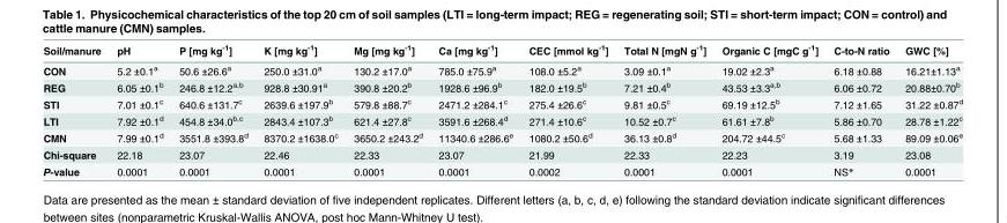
<table><thead><tr><td>Soil/manure</td><td>pH</td><td>P [mg kg<sup>-1</sup>]</td><td>K [mg kg<sup>-1</sup>]</td><td>Mg [mg kg<sup>-1</sup>]</td><td>Ca [mg kg<sup>-1</sup>]</td><td>CEC [mmol kg<sup>-1</sup>]</td><td>Total N [mgN g<sup>-1</sup>]</td><td>Organic C [mgC g<sup>-1</sup>]</td><td>C-to-N ratio</td><td>GWC [%]</td></tr></thead><tbody><tr><td>CON</td><td>5.2 ±0.1<sup>a</sup></td><td>50.6 ±26.6<sup>a</sup></td><td>250.0 ±31.0<sup>a</sup></td><td>130.2 ±17.0<sup>a</sup></td><td>785.0 ±75.9<sup>a</sup></td><td>108.0 ±5.2<sup>a</sup></td><td>3.09 ±0.1<sup>a</sup></td><td>19.02 ±2.3<sup>a</sup></td><td>6.18 ±0.88</td><td>16.21±1.13<sup>a</sup></td></tr><tr><td>REG</td><td>6.05 ±0.1<sup>b</sup></td><td>246.8 ±12.2<sup>a,b</sup></td><td>928.8 ±30.91<sup>a</sup></td><td>390.8 ±20.2<sup>b</sup></td><td>1928.6 ±96.9<sup>b</sup></td><td>182.0 ±19.5<sup>b</sup></td><td>7.21 ±0.4<sup>b</sup></td><td>43.53 ±3.3<sup>a,b</sup></td><td>6.06 ±0.72</td><td>20.88±0.70<sup>b</sup></td></tr><tr><td>STI</td><td>7.01 ±0.1<sup>c</sup></td><td>640.6 ±131.7<sup>c</sup></td><td>2639.6 ±197.9<sup>b</sup></td><td>579.8 ±88.7<sup>c</sup></td><td>2471.2 ±284.1<sup>c</sup></td><td>275.4 ±26.6<sup>c</sup></td><td>9.81 ±0.5<sup>c</sup></td><td>69.19 ±12.5<sup>b</sup></td><td>7.12 ±1.65</td><td>31.22 ±0.87<sup>d</sup></td></tr><tr><td>LTI</td><td>7.92 ±0.1<sup>d</sup></td><td>454.8 ±34.0<sup>b,c</sup></td><td>2843.4 ±107.3<sup>b</sup></td><td>621.4 ±27.8<sup>c</sup></td><td>3591.6 ±268.4<sup>d</sup></td><td>271.4 ±10.6<sup>c</sup></td><td>10.52 ±0.7<sup>c</sup></td><td>61.61 ±7.8<sup>b</sup></td><td>5.86 ±0.70</td><td>28.78 ±1.22<sup>c</sup></td></tr><tr><td>CMN</td><td>7.99 ±0.1<sup>d</sup></td><td>3551.8 ±393.8<sup>d</sup></td><td>8370.2 ±1638.0<sup>c</sup></td><td>3650.2 ±243.2<sup>d</sup></td><td>11340.6 ±286.6<sup>e</sup></td><td>1080.2 ±50.6<sup>d</sup></td><td>36.13 ±0.8<sup>d</sup></td><td>204.72 ±44.5<sup>c</sup></td><td>5.68 ±1.33</td><td>89.09 ±0.06<sup>e</sup></td></tr><tr><td>Chi-square</td><td>22.18</td><td>23.07</td><td>22.46</td><td>22.33</td><td>23.07</td><td>21.99</td><td>22.33</td><td>22.23</td><td>3.19</td><td>23.08</td></tr><tr><td>P-value</td><td>0.0001</td><td>0.0001</td><td>0.0001</td><td>0.0001</td><td>0.0001</td><td>0.0002</td><td>0.0001</td><td>0.0001</td><td>NS*</td><td>0.0001</td></tr></tbody></table>